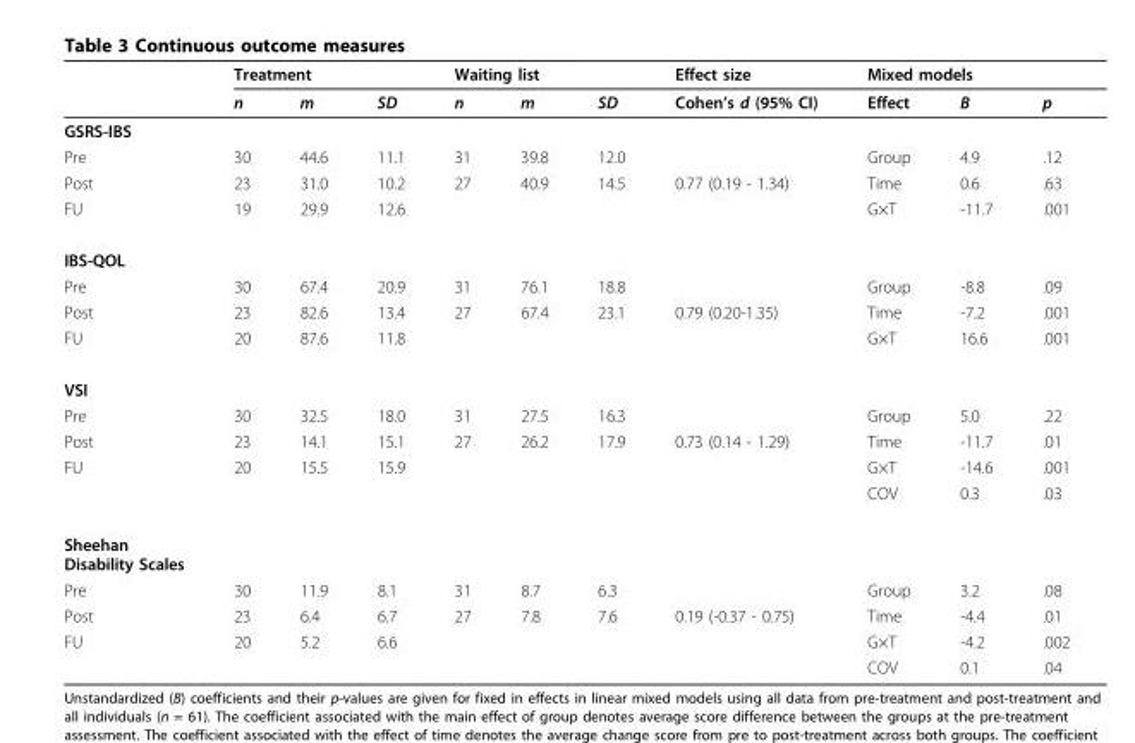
<table><thead><tr><td rowspan="2"></td><td colspan="3">Treatment</td><td colspan="3">Waiting list</td><td rowspan="2">Effect size Cohen’s d (95% CI)</td><td colspan="3">Mixed models</td></tr><tr><td>n</td><td>m</td><td>SD</td><td>n</td><td>m</td><td>SD</td><td>Effect</td><td>B</td><td>p</td></tr></thead><tbody><tr><td colspan="11">GSRS-IBS</td></tr><tr><td>Pre</td><td>30</td><td>44.6</td><td>11.1</td><td>31</td><td>39.8</td><td>12.0</td><td></td><td>Group</td><td>4.9</td><td>.12</td></tr><tr><td>Post</td><td>23</td><td>31.0</td><td>10.2</td><td>27</td><td>40.9</td><td>14.5</td><td>0.77 (0.19 - 1.34)</td><td>Time</td><td>0.6</td><td>.63</td></tr><tr><td>FU</td><td>19</td><td>29.9</td><td>12.6</td><td></td><td></td><td></td><td></td><td>G×T</td><td>-11.7</td><td>.001</td></tr><tr><td colspan="11">IBS-QOL</td></tr><tr><td>Pre</td><td>30</td><td>67.4</td><td>20.9</td><td>31</td><td>76.1</td><td>18.8</td><td></td><td>Group</td><td>-8.8</td><td>.09</td></tr><tr><td>Post</td><td>23</td><td>82.6</td><td>13.4</td><td>27</td><td>67.4</td><td>23.1</td><td>0.79 (0.20-1.35)</td><td>Time</td><td>-7.2</td><td>.001</td></tr><tr><td>FU</td><td>20</td><td>87.6</td><td>11.8</td><td></td><td></td><td></td><td></td><td>G×T</td><td>16.6</td><td>.001</td></tr><tr><td colspan="11">VSI</td></tr><tr><td>Pre</td><td>30</td><td>32.5</td><td>18.0</td><td>31</td><td>27.5</td><td>16.3</td><td></td><td>Group</td><td>5.0</td><td>.22</td></tr><tr><td>Post</td><td>23</td><td>14.1</td><td>15.1</td><td>27</td><td>26.2</td><td>17.9</td><td>0.73 (0.14 - 1.29)</td><td>Time</td><td>-11.7</td><td>.01</td></tr><tr><td rowspan="2">FU</td><td>20</td><td>15.5</td><td>15.9</td><td></td><td></td><td></td><td></td><td>G×T</td><td>-14.6</td><td>.001</td></tr><tr><td></td><td></td><td></td><td></td><td></td><td></td><td></td><td>COV</td><td>0.3</td><td>.03</td></tr><tr><td colspan="11">Sheehan Disability Scales</td></tr><tr><td>Pre</td><td>30</td><td>11.9</td><td>8.1</td><td>31</td><td>8.7</td><td>6.3</td><td></td><td>Group</td><td>3.2</td><td>.08</td></tr><tr><td>Post</td><td>23</td><td>6.4</td><td>6.7</td><td>27</td><td>7.8</td><td>7.6</td><td>0.19 (-0.37 - 0.75)</td><td>Time</td><td>-4.4</td><td>.01</td></tr><tr><td rowspan="2">FU</td><td>20</td><td>5.2</td><td>6.6</td><td></td><td></td><td></td><td></td><td>G×T</td><td>-4.2</td><td>.002</td></tr><tr><td></td><td></td><td></td><td></td><td></td><td></td><td></td><td>COV</td><td>0.1</td><td>.04</td></tr></tbody></table>